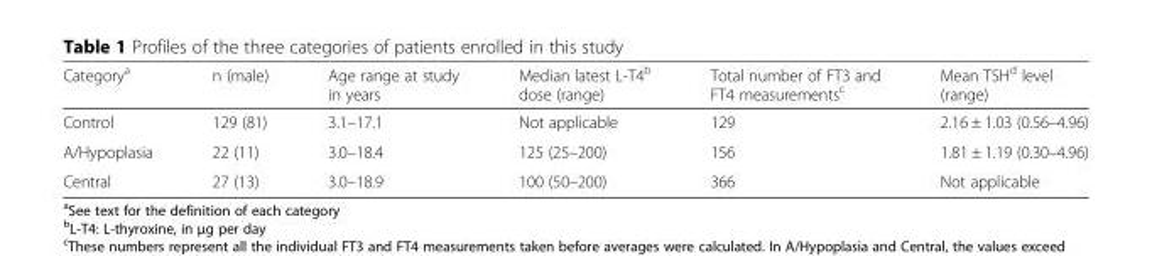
<table><thead><tr><td>Category<sup>a</sup></td><td>n (male)</td><td>Age range at study in years</td><td>Median latest L-T4<sup>b</sup> dose (range)</td><td>Total number of FT3 and FT4 measurements<sup>c</sup></td><td>Mean TSH<sup>d</sup> level (range)</td></tr></thead><tbody><tr><td>Control</td><td>129 (81)</td><td>3.1–17.1</td><td>Not applicable</td><td>129</td><td>2.16 ± 1.03 (0.56–4.96)</td></tr><tr><td>A/Hypoplasia</td><td>22 (11)</td><td>3.0–18.4</td><td>125 (25–200)</td><td>156</td><td>1.81 ± 1.19 (0.30–4.96)</td></tr><tr><td>Central</td><td>27 (13)</td><td>3.0–18.9</td><td>100 (50–200)</td><td>366</td><td>Not applicable</td></tr></tbody></table>